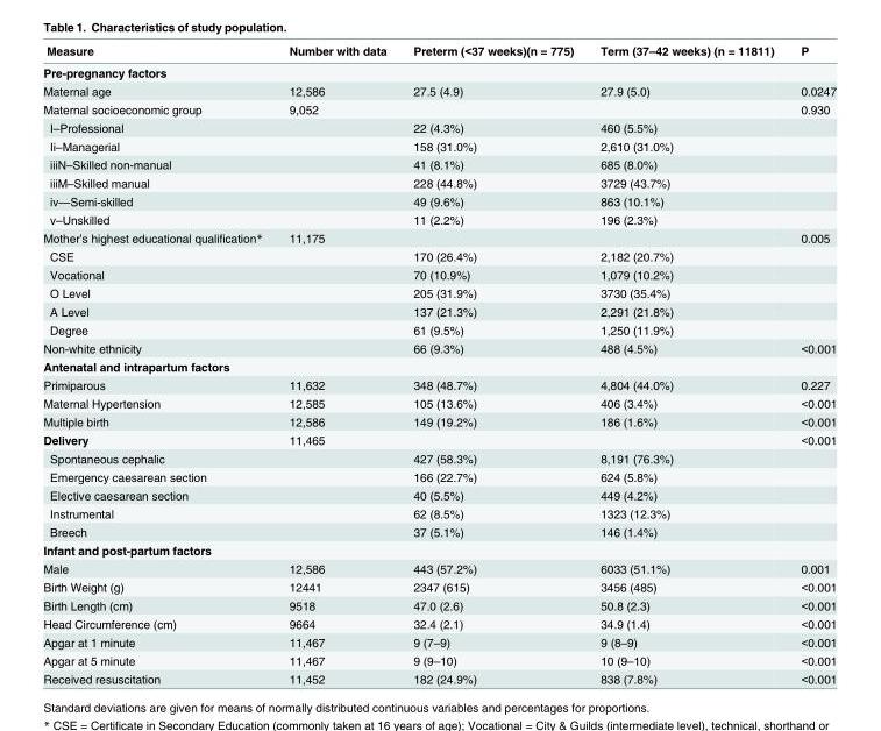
<table><thead><tr><td>Measure</td><td>Number with data</td><td>Preterm (&lt;37 weeks)(n = 775)</td><td>Term (37–42 weeks) (n = 11811)</td><td>P</td></tr></thead><tbody><tr><td colspan="5">Pre-pregnancy factors</td></tr><tr><td>Maternal age</td><td>12,586</td><td>27.5 (4.9)</td><td>27.9 (5.0)</td><td>0.0247</td></tr><tr><td>Maternal socioeconomic group</td><td>9,052</td><td></td><td></td><td>0.930</td></tr><tr><td>I–Professional</td><td></td><td>22 (4.3%)</td><td>460 (5.5%)</td><td></td></tr><tr><td>Ii–Managerial</td><td></td><td>158 (31.0%)</td><td>2,610 (31.0%)</td><td></td></tr><tr><td>iiiN–Skilled non-manual</td><td></td><td>41 (8.1%)</td><td>685 (8.0%)</td><td></td></tr><tr><td>iiiM–Skilled manual</td><td></td><td>228 (44.8%)</td><td>3729 (43.7%)</td><td></td></tr><tr><td>iv—Semi-skilled</td><td></td><td>49 (9.6%)</td><td>863 (10.1%)</td><td></td></tr><tr><td>v–Unskilled</td><td></td><td>11 (2.2%)</td><td>196 (2.3%)</td><td></td></tr><tr><td>Mother’s highest educational qualification*</td><td>11,175</td><td></td><td></td><td>0.005</td></tr><tr><td>CSE</td><td></td><td>170 (26.4%)</td><td>2,182 (20.7%)</td><td></td></tr><tr><td>Vocational</td><td></td><td>70 (10.9%)</td><td>1,079 (10.2%)</td><td></td></tr><tr><td>O Level</td><td></td><td>205 (31.9%)</td><td>3730 (35.4%)</td><td></td></tr><tr><td>A Level</td><td></td><td>137 (21.3%)</td><td>2,291 (21.8%)</td><td></td></tr><tr><td>Degree</td><td></td><td>61 (9.5%)</td><td>1,250 (11.9%)</td><td></td></tr><tr><td>Non-white ethnicity</td><td></td><td>66 (9.3%)</td><td>488 (4.5%)</td><td>&lt;0.001</td></tr><tr><td colspan="5">Antenatal and intrapartum factors</td></tr><tr><td>Primiparous</td><td>11,632</td><td>348 (48.7%)</td><td>4,804 (44.0%)</td><td>0.227</td></tr><tr><td>Maternal Hypertension</td><td>12,585</td><td>105 (13.6%)</td><td>406 (3.4%)</td><td>&lt;0.001</td></tr><tr><td>Multiple birth</td><td>12,586</td><td>149 (19.2%)</td><td>186 (1.6%)</td><td>&lt;0.001</td></tr><tr><td>Delivery</td><td>11,465</td><td></td><td></td><td>&lt;0.001</td></tr><tr><td>Spontaneous cephalic</td><td></td><td>427 (58.3%)</td><td>8,191 (76.3%)</td><td></td></tr><tr><td>Emergency caesarean section</td><td></td><td>166 (22.7%)</td><td>624 (5.8%)</td><td></td></tr><tr><td>Elective caesarean section</td><td></td><td>40 (5.5%)</td><td>449 (4.2%)</td><td></td></tr><tr><td>Instrumental</td><td></td><td>62 (8.5%)</td><td>1323 (12.3%)</td><td></td></tr><tr><td>Breech</td><td></td><td>37 (5.1%)</td><td>146 (1.4%)</td><td></td></tr><tr><td colspan="5">Infant and post-partum factors</td></tr><tr><td>Male</td><td>12,586</td><td>443 (57.2%)</td><td>6033 (51.1%)</td><td>0.001</td></tr><tr><td>Birth Weight (g)</td><td>12441</td><td>2347 (615)</td><td>3456 (485)</td><td>&lt;0.001</td></tr><tr><td>Birth Length (cm)</td><td>9518</td><td>47.0 (2.6)</td><td>50.8 (2.3)</td><td>&lt;0.001</td></tr><tr><td>Head Circumference (cm)</td><td>9664</td><td>32.4 (2.1)</td><td>34.9 (1.4)</td><td>&lt;0.001</td></tr><tr><td>Apgar at 1 minute</td><td>11,467</td><td>9 (7–9)</td><td>9 (8–9)</td><td>&lt;0.001</td></tr><tr><td>Apgar at 5 minute</td><td>11,467</td><td>9 (9–10)</td><td>10 (9–10)</td><td>&lt;0.001</td></tr><tr><td>Received resuscitation</td><td>11,452</td><td>182 (24.9%)</td><td>838 (7.8%)</td><td>&lt;0.001</td></tr></tbody></table>